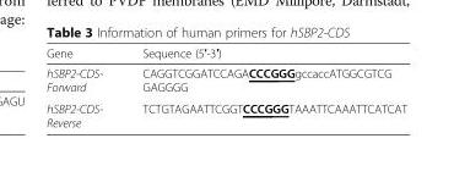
<table><thead><tr><td>Gene</td><td>Sequence (5′-3′)</td></tr></thead><tbody><tr><td>hSBP2-CDS- Forward</td><td>CAGGTCGGATCCAGACCCGGGgccaccATGGCGTCG GAGGGG</td></tr><tr><td>hSBP2-CDS- Reverse</td><td>TCTGTAGAATTCGGTCCCGGGTAAATTCAAATTCATCAT</td></tr></tbody></table>